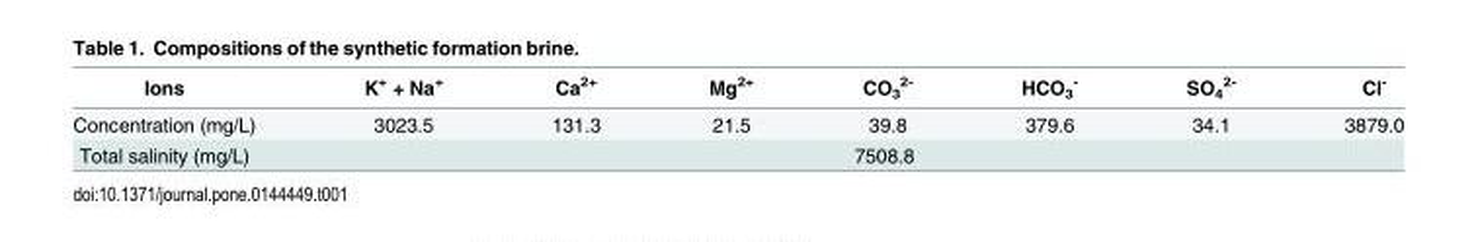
<table><thead><tr><td>Ions</td><td>K<sup>+</sup> + Na<sup>+</sup></td><td>Ca<sup>2+</sup></td><td>Mg<sup>2+</sup></td><td>CO<sub>3</sub> <sup>2-</sup></td><td>HCO<sub>3</sub> <sup>-</sup></td><td>SO<sub>4</sub> <sup>2-</sup></td><td>Cl<sup>-</sup></td></tr></thead><tbody><tr><td>Concentration (mg/L)</td><td>3023.5</td><td>131.3</td><td>21.5</td><td>39.8</td><td>379.6</td><td>34.1</td><td>3879.0</td></tr><tr><td>Total salinity (mg/L)</td><td colspan="7">7508.8</td></tr></tbody></table>